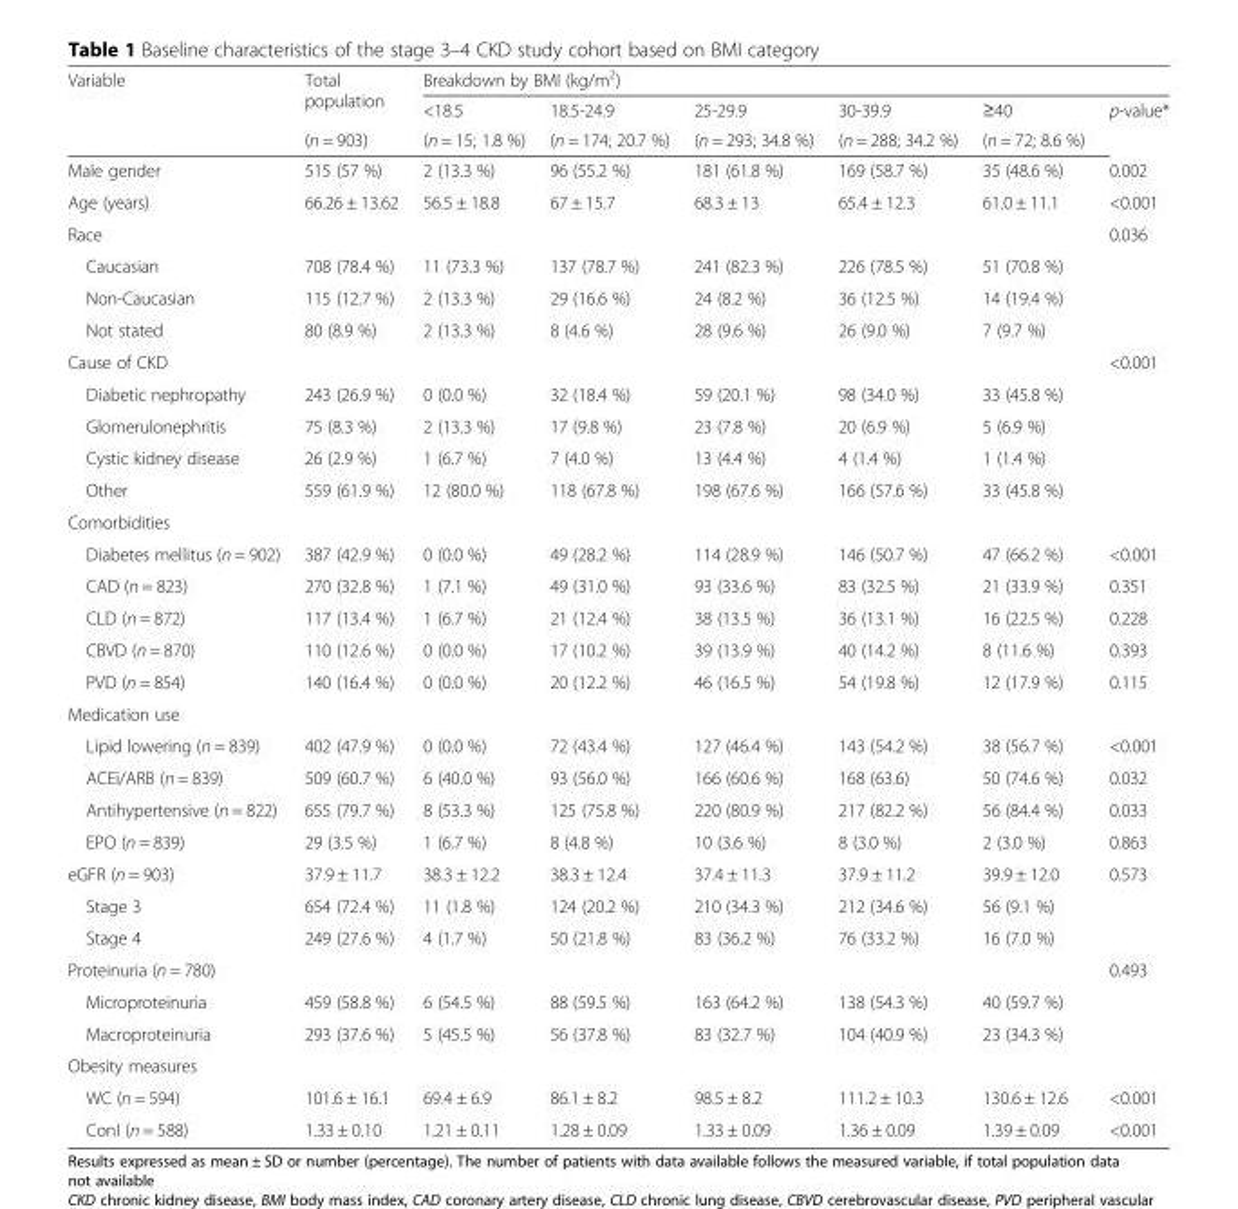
<table><thead><tr><td rowspan="3">Variable</td><td rowspan="3">Total population (n = 903)</td><td colspan="6">Breakdown by BMI (kg/m<sup>2</sup>)</td></tr><tr><td rowspan="2">&lt;18.5 (n = 15; 1.8 %)</td><td rowspan="2">18.5-24.9 (n = 174; 20.7 %)</td><td rowspan="2">25-29.9 (n = 293; 34.8 %)</td><td rowspan="2">30-39.9 (n = 288; 34.2 %)</td><td rowspan="2">≥40 (n = 72; 8.6 %)</td><td rowspan="2">p-value*</td></tr><tr></tr></thead><tbody><tr><td>Male gender</td><td>515 (57 %)</td><td>2 (13.3 %)</td><td>96 (55.2 %)</td><td>181 (61.8 %)</td><td>169 (58.7 %)</td><td>35 (48.6 %)</td><td>0.002</td></tr><tr><td>Age (years)</td><td>66.26 ± 13.62</td><td>56.5 ± 18.8</td><td>67 ± 15.7</td><td>68.3 ± 13</td><td>65.4 ± 12.3</td><td>61.0 ± 11.1</td><td>&lt;0.001</td></tr><tr><td>Race</td><td></td><td></td><td></td><td></td><td></td><td></td><td>0.036</td></tr><tr><td>Caucasian</td><td>708 (78.4 %)</td><td>11 (73.3 %)</td><td>137 (78.7 %)</td><td>241 (82.3 %)</td><td>226 (78.5 %)</td><td>51 (70.8 %)</td><td></td></tr><tr><td>Non-Caucasian</td><td>115 (12.7 %)</td><td>2 (13.3 %)</td><td>29 (16.6 %)</td><td>24 (8.2 %)</td><td>36 (12.5 %)</td><td>14 (19.4 %)</td><td></td></tr><tr><td>Not stated</td><td>80 (8.9 %)</td><td>2 (13.3 %)</td><td>8 (4.6 %)</td><td>28 (9.6 %)</td><td>26 (9.0 %)</td><td>7 (9.7 %)</td><td></td></tr><tr><td>Cause of CKD</td><td></td><td></td><td></td><td></td><td></td><td></td><td>&lt;0.001</td></tr><tr><td>Diabetic nephropathy</td><td>243 (26.9 %)</td><td>0 (0.0 %)</td><td>32 (18.4 %)</td><td>59 (20.1 %)</td><td>98 (34.0 %)</td><td>33 (45.8 %)</td><td></td></tr><tr><td>Glomerulonephritis</td><td>75 (8.3 %)</td><td>2 (13.3 %)</td><td>17 (9.8 %)</td><td>23 (7.8 %)</td><td>20 (6.9 %)</td><td>5 (6.9 %)</td><td></td></tr><tr><td>Cystic kidney disease</td><td>26 (2.9 %)</td><td>1 (6.7 %)</td><td>7 (4.0 %)</td><td>13 (4.4 %)</td><td>4 (1.4 %)</td><td>1 (1.4 %)</td><td></td></tr><tr><td>Other</td><td>559 (61.9 %)</td><td>12 (80.0 %)</td><td>118 (67.8 %)</td><td>198 (67.6 %)</td><td>166 (57.6 %)</td><td>33 (45.8 %)</td><td></td></tr><tr><td colspan="8">Comorbidities</td></tr><tr><td>Diabetes mellitus (n = 902)</td><td>387 (42.9 %)</td><td>0 (0.0 %)</td><td>49 (28.2 %)</td><td>114 (28.9 %)</td><td>146 (50.7 %)</td><td>47 (66.2 %)</td><td>&lt;0.001</td></tr><tr><td>CAD (n = 823)</td><td>270 (32.8 %)</td><td>1 (7.1 %)</td><td>49 (31.0 %)</td><td>93 (33.6 %)</td><td>83 (32.5 %)</td><td>21 (33.9 %)</td><td>0.351</td></tr><tr><td>CLD (n = 872)</td><td>117 (13.4 %)</td><td>1 (6.7 %)</td><td>21 (12.4 %)</td><td>38 (13.5 %)</td><td>36 (13.1 %)</td><td>16 (22.5 %)</td><td>0.228</td></tr><tr><td>CBVD (n = 870)</td><td>110 (12.6 %)</td><td>0 (0.0 %)</td><td>17 (10.2 %)</td><td>39 (13.9 %)</td><td>40 (14.2 %)</td><td>8 (11.6 %)</td><td>0.393</td></tr><tr><td>PVD (n = 854)</td><td>140 (16.4 %)</td><td>0 (0.0 %)</td><td>20 (12.2 %)</td><td>46 (16.5 %)</td><td>54 (19.8 %)</td><td>12 (17.9 %)</td><td>0.115</td></tr><tr><td colspan="8">Medication use</td></tr><tr><td>Lipid lowering (n = 839)</td><td>402 (47.9 %)</td><td>0 (0.0 %)</td><td>72 (43.4 %)</td><td>127 (46.4 %)</td><td>143 (54.2 %)</td><td>38 (56.7 %)</td><td>&lt;0.001</td></tr><tr><td>ACEi/ARB (n = 839)</td><td>509 (60.7 %)</td><td>6 (40.0 %)</td><td>93 (56.0 %)</td><td>166 (60.6 %)</td><td>168 (63.6)</td><td>50 (74.6 %)</td><td>0.032</td></tr><tr><td>Antihypertensive (n = 822)</td><td>655 (79.7 %)</td><td>8 (53.3 %)</td><td>125 (75.8 %)</td><td>220 (80.9 %)</td><td>217 (82.2 %)</td><td>56 (84.4 %)</td><td>0.033</td></tr><tr><td>EPO (n = 839)</td><td>29 (3.5 %)</td><td>1 (6.7 %)</td><td>8 (4.8 %)</td><td>10 (3.6 %)</td><td>8 (3.0 %)</td><td>2 (3.0 %)</td><td>0.863</td></tr><tr><td>eGFR (n = 903)</td><td>37.9 ± 11.7</td><td>38.3 ± 12.2</td><td>38.3 ± 12.4</td><td>37.4 ± 11.3</td><td>37.9 ± 11.2</td><td>39.9 ± 12.0</td><td>0.573</td></tr><tr><td>Stage 3</td><td>654 (72.4 %)</td><td>11 (1.8 %)</td><td>124 (20.2 %)</td><td>210 (34.3 %)</td><td>212 (34.6 %)</td><td>56 (9.1 %)</td><td></td></tr><tr><td>Stage 4</td><td>249 (27.6 %)</td><td>4 (1.7 %)</td><td>50 (21.8 %)</td><td>83 (36.2 %)</td><td>76 (33.2 %)</td><td>16 (7.0 %)</td><td></td></tr><tr><td>Proteinuria (n = 780)</td><td></td><td></td><td></td><td></td><td></td><td></td><td>0.493</td></tr><tr><td>Microproteinuria</td><td>459 (58.8 %)</td><td>6 (54.5 %)</td><td>88 (59.5 %)</td><td>163 (64.2 %)</td><td>138 (54.3 %)</td><td>40 (59.7 %)</td><td></td></tr><tr><td>Macroproteinuria</td><td>293 (37.6 %)</td><td>5 (45.5 %)</td><td>56 (37.8 %)</td><td>83 (32.7 %)</td><td>104 (40.9 %)</td><td>23 (34.3 %)</td><td></td></tr><tr><td colspan="8">Obesity measures</td></tr><tr><td>WC (n = 594)</td><td>101.6 ± 16.1</td><td>69.4 ± 6.9</td><td>86.1 ± 8.2</td><td>98.5 ± 8.2</td><td>111.2 ± 10.3</td><td>130.6 ± 12.6</td><td>&lt;0.001</td></tr><tr><td>ConI (n = 588)</td><td>1.33 ± 0.10</td><td>1.21 ± 0.11</td><td>1.28 ± 0.09</td><td>1.33 ± 0.09</td><td>1.36 ± 0.09</td><td>1.39 ± 0.09</td><td>&lt;0.001</td></tr></tbody></table>